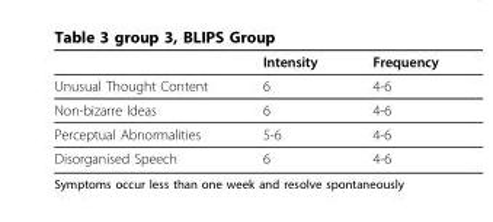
<table><thead><tr><td></td><td>Intensity</td><td>Frequency</td></tr></thead><tbody><tr><td>Unusual Thought Content</td><td>6</td><td>4-6</td></tr><tr><td>Non-bizarre Ideas</td><td>6</td><td>4-6</td></tr><tr><td>Perceptual Abnormalities</td><td>5-6</td><td>4-6</td></tr><tr><td>Disorganised Speech</td><td>6</td><td>4-6</td></tr></tbody></table>